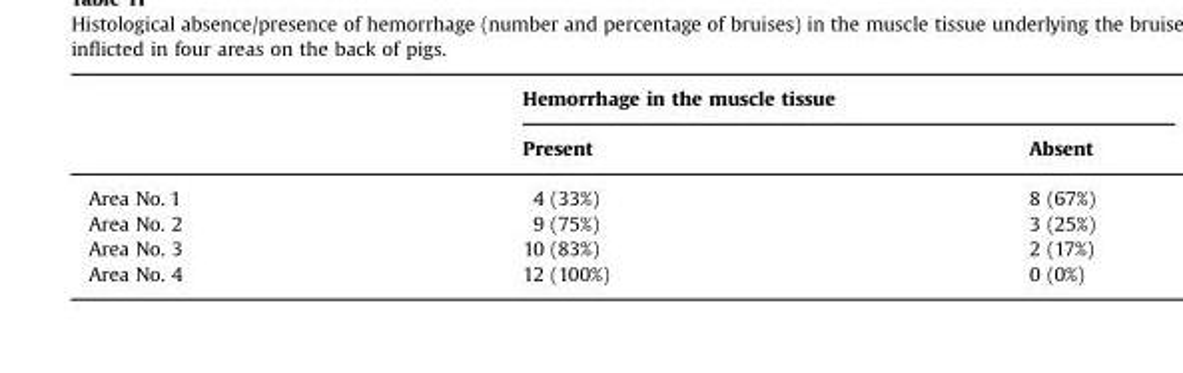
<table><thead><tr><td rowspan="2"></td><td colspan="2">Hemorrhage in the muscle tissue</td></tr><tr><td>Present</td><td>Absent</td></tr></thead><tbody><tr><td>Area No. 1</td><td>4 (33%)</td><td>8 (67%)</td></tr><tr><td>Area No. 2</td><td>9 (75%)</td><td>3 (25%)</td></tr><tr><td>Area No. 3</td><td>10 (83%)</td><td>2 (17%)</td></tr><tr><td>Area No. 4</td><td>12 (100%)</td><td>0 (0%)</td></tr></tbody></table>